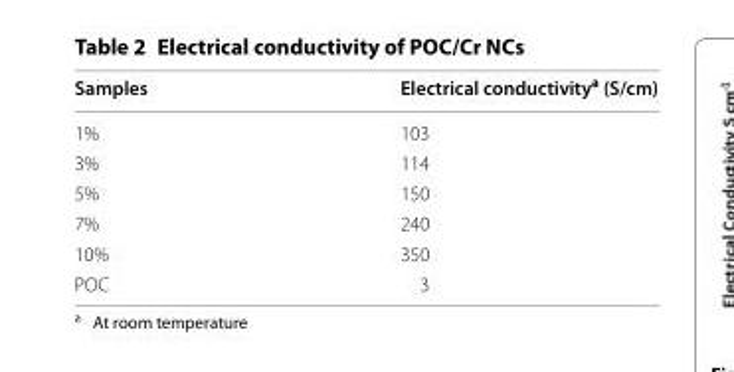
<table><thead><tr><td>Samples</td><td>Electrical conductivity<sup>a</sup> (S/cm)</td></tr></thead><tbody><tr><td>1%</td><td>103</td></tr><tr><td>3%</td><td>114</td></tr><tr><td>5%</td><td>150</td></tr><tr><td>7%</td><td>240</td></tr><tr><td>10%</td><td>350</td></tr><tr><td>POC</td><td>3</td></tr></tbody></table>